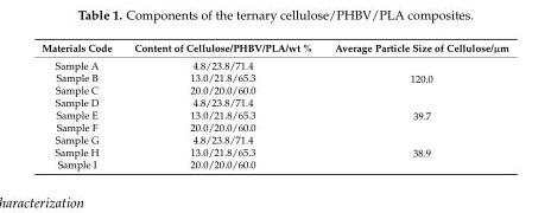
<table><thead><tr><td>Materials Code</td><td>Content of Cellulose/PHBV/PLA/wt %</td><td>Average Particle Size of Cellulose/µm</td></tr></thead><tbody><tr><td>Sample A</td><td>4.8/23.8/71.4</td><td rowspan="3">120.0</td></tr><tr><td>Sample B</td><td>13.0/21.8/65.3</td></tr><tr><td>Sample C</td><td>20.0/20.0/60.0</td></tr><tr><td>Sample D</td><td>4.8/23.8/71.4</td><td rowspan="3">39.7</td></tr><tr><td>Sample E</td><td>13.0/21.8/65.3</td></tr><tr><td>Sample F</td><td>20.0/20.0/60.0</td></tr><tr><td>Sample G</td><td>4.8/23.8/71.4</td><td rowspan="3">38.9</td></tr><tr><td>Sample H</td><td>13.0/21.8/65.3</td></tr><tr><td>Sample I</td><td>20.0/20.0/60.0</td></tr></tbody></table>